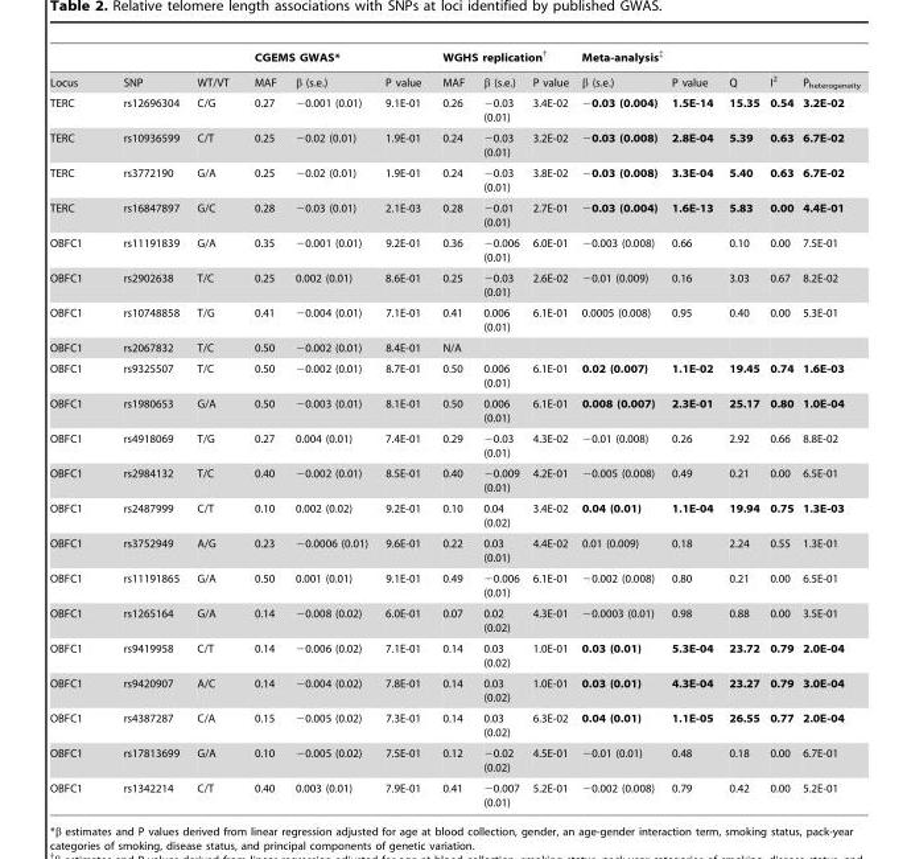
<table><thead><tr><td rowspan="2">Locus</td><td rowspan="2">SNP</td><td rowspan="2">WT/VT</td><td colspan="3">CGEMS GWAS*</td><td colspan="3">WGHS replication†</td><td colspan="2">Meta-analysis‡</td><td rowspan="2">Q</td><td rowspan="2">I<sup>2</sup></td><td rowspan="2">P<sub>heterogeneity</sub></td></tr><tr><td>MAF</td><td>β (s.e.)</td><td>P value</td><td>MAF</td><td>β (s.e.)</td><td>P value</td><td>β (s.e.)</td><td>P value</td></tr></thead><tbody><tr><td>TERC</td><td>rs12696304</td><td>C/G</td><td>0.27</td><td>−0.001 (0.01)</td><td>9.1E-01</td><td>0.26</td><td>−0.03 (0.01)</td><td>3.4E-02</td><td>−0.03 (0.004)</td><td>1.5E-14</td><td>15.35</td><td>0.54</td><td>3.2E-02</td></tr><tr><td>TERC</td><td>rs10936599</td><td>C/T</td><td>0.25</td><td>−0.02 (0.01)</td><td>1.9E-01</td><td>0.24</td><td>−0.03 (0.01)</td><td>3.2E-02</td><td>−0.03 (0.008)</td><td>2.8E-04</td><td>5.39</td><td>0.63</td><td>6.7E-02</td></tr><tr><td>TERC</td><td>rs3772190</td><td>G/A</td><td>0.25</td><td>−0.02 (0.01)</td><td>1.9E-01</td><td>0.24</td><td>−0.03 (0.01)</td><td>3.8E-02</td><td>−0.03 (0.008)</td><td>3.3E-04</td><td>5.40</td><td>0.63</td><td>6.7E-02</td></tr><tr><td>TERC</td><td>rs16847897</td><td>G/C</td><td>0.28</td><td>−0.03 (0.01)</td><td>2.1E-03</td><td>0.28</td><td>−0.01 (0.01)</td><td>2.7E-01</td><td>−0.03 (0.004)</td><td>1.6E-13</td><td>5.83</td><td>0.00</td><td>4.4E-01</td></tr><tr><td>OBFC1</td><td>rs11191839</td><td>G/A</td><td>0.35</td><td>−0.001 (0.01)</td><td>9.2E-01</td><td>0.36</td><td>−0.006 (0.01)</td><td>6.0E-01</td><td>−0.003 (0.008)</td><td>0.66</td><td>0.10</td><td>0.00</td><td>7.5E-01</td></tr><tr><td>OBFC1</td><td>rs2902638</td><td>T/C</td><td>0.25</td><td>0.002 (0.01)</td><td>8.6E-01</td><td>0.25</td><td>−0.03 (0.01)</td><td>2.6E-02</td><td>−0.01 (0.009)</td><td>0.16</td><td>3.03</td><td>0.67</td><td>8.2E-02</td></tr><tr><td>OBFC1</td><td>rs10748858</td><td>T/G</td><td>0.41</td><td>−0.004 (0.01)</td><td>7.1E-01</td><td>0.41</td><td>0.006 (0.01)</td><td>6.1E-01</td><td>0.0005 (0.008)</td><td>0.95</td><td>0.40</td><td>0.00</td><td>5.3E-01</td></tr><tr><td>OBFC1</td><td>rs2067832</td><td>T/C</td><td>0.50</td><td>−0.002 (0.01)</td><td>8.4E-01</td><td>N/A</td><td></td><td></td><td></td><td></td><td></td><td></td><td></td></tr><tr><td>OBFC1</td><td>rs9325507</td><td>T/C</td><td>0.50</td><td>−0.002 (0.01)</td><td>8.7E-01</td><td>0.50</td><td>0.006 (0.01)</td><td>6.1E-01</td><td>0.02 (0.007)</td><td>1.1E-02</td><td>19.45</td><td>0.74</td><td>1.6E-03</td></tr><tr><td>OBFC1</td><td>rs1980653</td><td>G/A</td><td>0.50</td><td>−0.003 (0.01)</td><td>8.1E-01</td><td>0.50</td><td>0.006 (0.01)</td><td>6.1E-01</td><td>0.008 (0.007)</td><td>2.3E-01</td><td>25.17</td><td>0.80</td><td>1.0E-04</td></tr><tr><td>OBFC1</td><td>rs4918069</td><td>T/G</td><td>0.27</td><td>0.004 (0.01)</td><td>7.4E-01</td><td>0.29</td><td>−0.03 (0.01)</td><td>4.3E-02</td><td>−0.01 (0.008)</td><td>0.26</td><td>2.92</td><td>0.66</td><td>8.8E-02</td></tr><tr><td>OBFC1</td><td>rs2984132</td><td>T/C</td><td>0.40</td><td>−0.002 (0.01)</td><td>8.5E-01</td><td>0.40</td><td>−0.009 (0.01)</td><td>4.2E-01</td><td>−0.005 (0.008)</td><td>0.49</td><td>0.21</td><td>0.00</td><td>6.5E-01</td></tr><tr><td>OBFC1</td><td>rs2487999</td><td>C/T</td><td>0.10</td><td>0.002 (0.02)</td><td>9.2E-01</td><td>0.10</td><td>0.04 (0.02)</td><td>3.4E-02</td><td>0.04 (0.01)</td><td>1.1E-04</td><td>19.94</td><td>0.75</td><td>1.3E-03</td></tr><tr><td>OBFC1</td><td>rs3752949</td><td>A/G</td><td>0.23</td><td>−0.0006 (0.01)</td><td>9.6E-01</td><td>0.22</td><td>0.03 (0.01)</td><td>4.4E-02</td><td>0.01 (0.009)</td><td>0.18</td><td>2.24</td><td>0.55</td><td>1.3E-01</td></tr><tr><td>OBFC1</td><td>rs11191865</td><td>G/A</td><td>0.50</td><td>0.001 (0.01)</td><td>9.1E-01</td><td>0.49</td><td>−0.006 (0.01)</td><td>6.1E-01</td><td>−0.002 (0.008)</td><td>0.80</td><td>0.21</td><td>0.00</td><td>6.5E-01</td></tr><tr><td>OBFC1</td><td>rs1265164</td><td>G/A</td><td>0.14</td><td>−0.008 (0.02)</td><td>6.0E-01</td><td>0.07</td><td>0.02 (0.02)</td><td>4.3E-01</td><td>−0.0003 (0.01)</td><td>0.98</td><td>0.88</td><td>0.00</td><td>3.5E-01</td></tr><tr><td>OBFC1</td><td>rs9419958</td><td>C/T</td><td>0.14</td><td>−0.006 (0.02)</td><td>7.1E-01</td><td>0.14</td><td>0.03 (0.02)</td><td>1.0E-01</td><td>0.03 (0.01)</td><td>5.3E-04</td><td>23.72</td><td>0.79</td><td>2.0E-04</td></tr><tr><td>OBFC1</td><td>rs9420907</td><td>A/C</td><td>0.14</td><td>−0.004 (0.02)</td><td>7.8E-01</td><td>0.14</td><td>0.03 (0.02)</td><td>1.0E-01</td><td>0.03 (0.01)</td><td>4.3E-04</td><td>23.27</td><td>0.79</td><td>3.0E-04</td></tr><tr><td>OBFC1</td><td>rs4387287</td><td>C/A</td><td>0.15</td><td>−0.005 (0.02)</td><td>7.3E-01</td><td>0.14</td><td>0.03 (0.02)</td><td>6.3E-02</td><td>0.04 (0.01)</td><td>1.1E-05</td><td>26.55</td><td>0.77</td><td>2.0E-04</td></tr><tr><td>OBFC1</td><td>rs17813699</td><td>G/A</td><td>0.10</td><td>−0.005 (0.02)</td><td>7.5E-01</td><td>0.12</td><td>−0.02 (0.02)</td><td>4.5E-01</td><td>−0.01 (0.01)</td><td>0.48</td><td>0.18</td><td>0.00</td><td>6.7E-01</td></tr><tr><td>OBFC1</td><td>rs1342214</td><td>C/T</td><td>0.40</td><td>0.003 (0.01)</td><td>7.9E-01</td><td>0.41</td><td>−0.007 (0.01)</td><td>5.2E-01</td><td>−0.002 (0.008)</td><td>0.79</td><td>0.42</td><td>0.00</td><td>5.2E-01</td></tr></tbody></table>